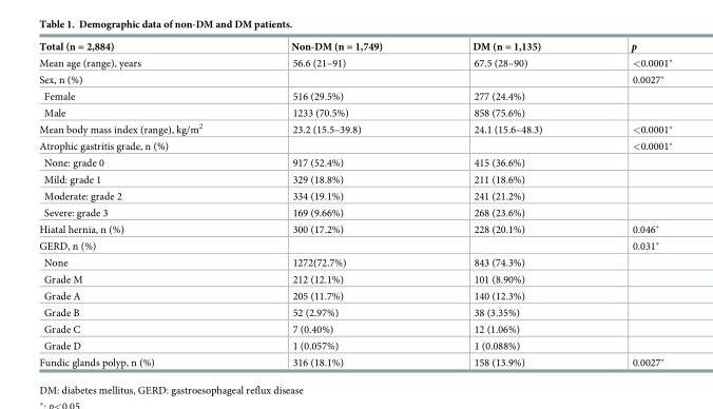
<table><thead><tr><td>Total (n = 2,884)</td><td>Non-DM (n = 1,749)</td><td>DM (n = 1,135)</td><td>p</td></tr></thead><tbody><tr><td>Mean age (range), years</td><td>56.6 (21–91)</td><td>67.5 (28–90)</td><td>&lt;0.0001*</td></tr><tr><td>Sex, n (%)</td><td></td><td></td><td>0.0027*</td></tr><tr><td>Female</td><td>516 (29.5%)</td><td>277 (24.4%)</td><td></td></tr><tr><td>Male</td><td>1233 (70.5%)</td><td>858 (75.6%)</td><td></td></tr><tr><td>Mean body mass index (range), kg/m<sup>2</sup></td><td>23.2 (15.5–39.8)</td><td>24.1 (15.6–48.3)</td><td>&lt;0.0001*</td></tr><tr><td>Atrophic gastritis grade, n (%)</td><td></td><td></td><td>&lt;0.0001*</td></tr><tr><td>None: grade 0</td><td>917 (52.4%)</td><td>415 (36.6%)</td><td></td></tr><tr><td>Mild: grade 1</td><td>329 (18.8%)</td><td>211 (18.6%)</td><td></td></tr><tr><td>Moderate: grade 2</td><td>334 (19.1%)</td><td>241 (21.2%)</td><td></td></tr><tr><td>Severe: grade 3</td><td>169 (9.66%)</td><td>268 (23.6%)</td><td></td></tr><tr><td>Hiatal hernia, n (%)</td><td>300 (17.2%)</td><td>228 (20.1%)</td><td>0.046*</td></tr><tr><td>GERD, n (%)</td><td></td><td></td><td>0.031*</td></tr><tr><td>None</td><td>1272(72.7%)</td><td>843 (74.3%)</td><td></td></tr><tr><td>Grade M</td><td>212 (12.1%)</td><td>101 (8.90%)</td><td></td></tr><tr><td>Grade A</td><td>205 (11.7%)</td><td>140 (12.3%)</td><td></td></tr><tr><td>Grade B</td><td>52 (2.97%)</td><td>38 (3.35%)</td><td></td></tr><tr><td>Grade C</td><td>7 (0.40%)</td><td>12 (1.06%)</td><td></td></tr><tr><td>Grade D</td><td>1 (0.057%)</td><td>1 (0.088%)</td><td></td></tr><tr><td>Fundic glands polyp, n (%)</td><td>316 (18.1%)</td><td>158 (13.9%)</td><td>0.0027*</td></tr></tbody></table>